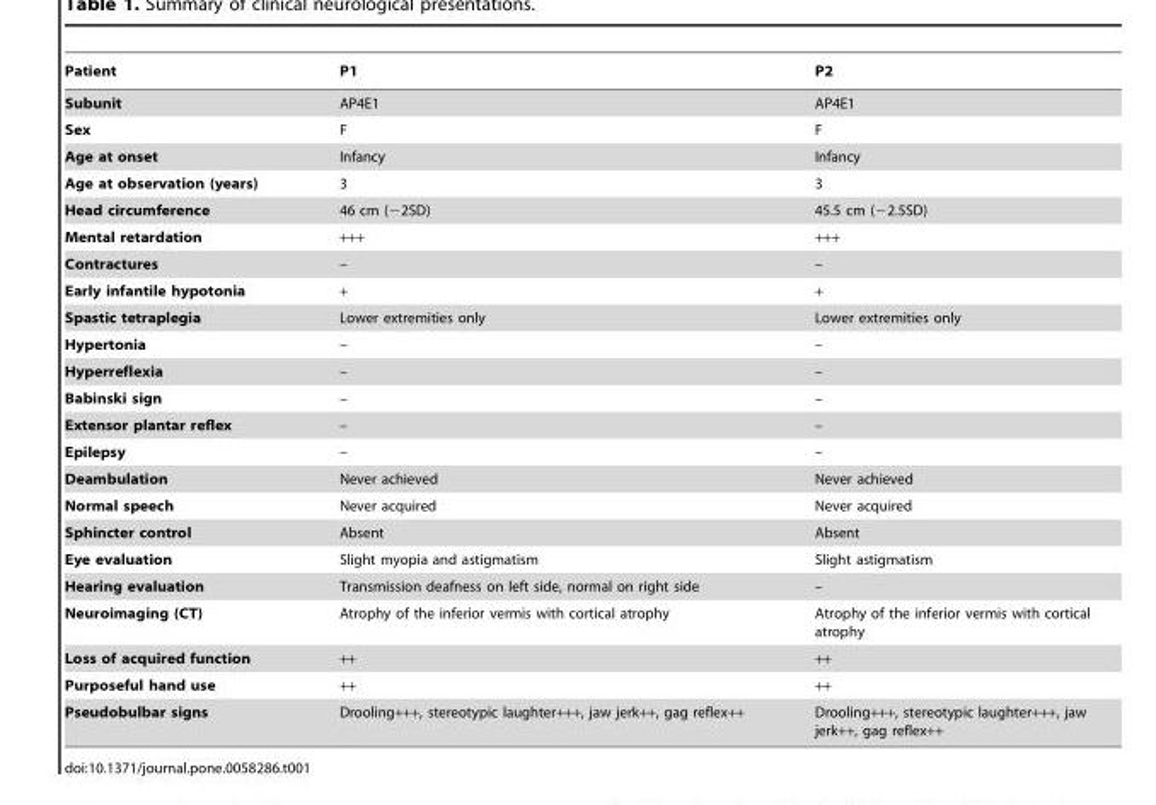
<table><thead><tr><td>Patient</td><td>P1</td><td>P2</td></tr></thead><tbody><tr><td>Subunit</td><td>AP4E1</td><td>AP4E1</td></tr><tr><td>Sex</td><td>F</td><td>F</td></tr><tr><td>Age at onset</td><td>Infancy</td><td>Infancy</td></tr><tr><td>Age at observation (years)</td><td>3</td><td>3</td></tr><tr><td>Head circumference</td><td>46 cm (−2SD)</td><td>45.5 cm (−2.5SD)</td></tr><tr><td>Mental retardation</td><td>+++</td><td>+++</td></tr><tr><td>Contractures</td><td>–</td><td>–</td></tr><tr><td>Early infantile hypotonia</td><td>+</td><td>+</td></tr><tr><td>Spastic tetraplegia</td><td>Lower extremities only</td><td>Lower extremities only</td></tr><tr><td>Hypertonia</td><td>–</td><td>–</td></tr><tr><td>Hyperreflexia</td><td>–</td><td>–</td></tr><tr><td>Babinski sign</td><td>–</td><td>–</td></tr><tr><td>Extensor plantar reflex</td><td>–</td><td>–</td></tr><tr><td>Epilepsy</td><td>–</td><td>–</td></tr><tr><td>Deambulation</td><td>Never achieved</td><td>Never achieved</td></tr><tr><td>Normal speech</td><td>Never acquired</td><td>Never acquired</td></tr><tr><td>Sphincter control</td><td>Absent</td><td>Absent</td></tr><tr><td>Eye evaluation</td><td>Slight myopia and astigmatism</td><td>Slight astigmatism</td></tr><tr><td>Hearing evaluation</td><td>Transmission deafness on left side, normal on right side</td><td>–</td></tr><tr><td>Neuroimaging (CT)</td><td>Atrophy of the inferior vermis with cortical atrophy</td><td>Atrophy of the inferior vermis with cortical atrophy</td></tr><tr><td>Loss of acquired function</td><td>++</td><td>++</td></tr><tr><td>Purposeful hand use</td><td>++</td><td>++</td></tr><tr><td>Pseudobulbar signs</td><td>Drooling+++, stereotypic laughter+++, jaw jerk++, gag reflex++</td><td>Drooling+++, stereotypic laughter+++, jaw jerk++, gag reflex++</td></tr></tbody></table>